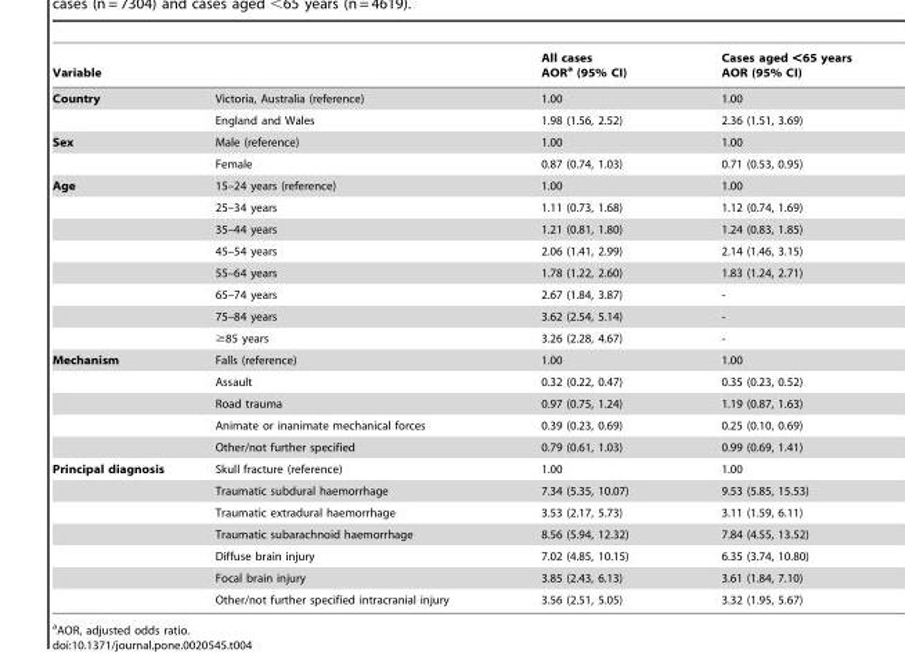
<table><thead><tr><td colspan="2">Variable</td><td rowspan="2">All cases AOR<sup>a</sup> (95% CI) 1.00</td><td rowspan="2">Cases aged &lt;65 years AOR (95% CI) 1.00</td></tr><tr><td>Country</td><td>Victoria, Australia (reference)</td></tr></thead><tbody><tr><td></td><td>England and Wales</td><td>1.98 (1.56, 2.52)</td><td>2.36 (1.51, 3.69)</td></tr><tr><td rowspan="2">Sex</td><td>Male (reference)</td><td>1.00</td><td>1.00</td></tr><tr><td>Female</td><td>0.87 (0.74, 1.03)</td><td>0.71 (0.53, 0.95)</td></tr><tr><td rowspan="8">Age</td><td>15–24 years (reference)</td><td>1.00</td><td>1.00</td></tr><tr><td>25–34 years</td><td>1.11 (0.73, 1.68)</td><td>1.12 (0.74, 1.69)</td></tr><tr><td>35–44 years</td><td>1.21 (0.81, 1.80)</td><td>1.24 (0.83, 1.85)</td></tr><tr><td>45–54 years</td><td>2.06 (1.41, 2.99)</td><td>2.14 (1.46, 3.15)</td></tr><tr><td>55–64 years</td><td>1.78 (1.22, 2.60)</td><td>1.83 (1.24, 2.71)</td></tr><tr><td>65–74 years</td><td>2.67 (1.84, 3.87)</td><td>-</td></tr><tr><td>75–84 years</td><td>3.62 (2.54, 5.14)</td><td>-</td></tr><tr><td>≥85 years</td><td>3.26 (2.28, 4.67)</td><td>-</td></tr><tr><td rowspan="5">Mechanism</td><td>Falls (reference)</td><td>1.00</td><td>1.00</td></tr><tr><td>Assault</td><td>0.32 (0.22, 0.47)</td><td>0.35 (0.23, 0.52)</td></tr><tr><td>Road trauma</td><td>0.97 (0.75, 1.24)</td><td>1.19 (0.87, 1.63)</td></tr><tr><td>Animate or inanimate mechanical forces</td><td>0.39 (0.23, 0.69)</td><td>0.25 (0.10, 0.69)</td></tr><tr><td>Other/not further specified</td><td>0.79 (0.61, 1.03)</td><td>0.99 (0.69, 1.41)</td></tr><tr><td rowspan="7">Principal diagnosis</td><td>Skull fracture (reference)</td><td>1.00</td><td>1.00</td></tr><tr><td>Traumatic subdural haemorrhage</td><td>7.34 (5.35, 10.07)</td><td>9.53 (5.85, 15.53)</td></tr><tr><td>Traumatic extradural haemorrhage</td><td>3.53 (2.17, 5.73)</td><td>3.11 (1.59, 6.11)</td></tr><tr><td>Traumatic subarachnoid haemorrhage</td><td>8.56 (5.94, 12.32)</td><td>7.84 (4.55, 13.52)</td></tr><tr><td>Diffuse brain injury</td><td>7.02 (4.85, 10.15)</td><td>6.35 (3.74, 10.80)</td></tr><tr><td>Focal brain injury</td><td>3.85 (2.43, 6.13)</td><td>3.61 (1.84, 7.10)</td></tr><tr><td>Other/not further specified intracranial injury</td><td>3.56 (2.51, 5.05)</td><td>3.32 (1.95, 5.67)</td></tr></tbody></table>